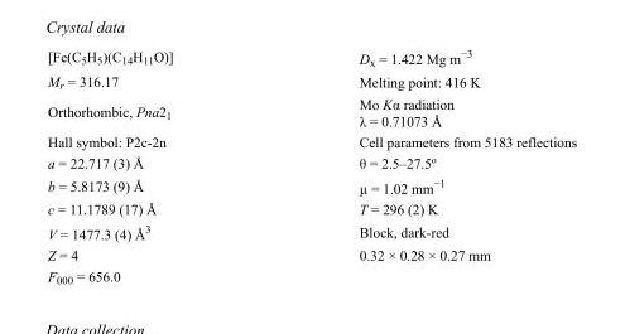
<table><tbody><tr><td>[Fe(C<sub>5</sub>H<sub>5</sub>)(C<sub>14</sub>H<sub>11</sub>O)]</td><td>D<sub>x</sub> = 1.422 Mg m<sup>−3</sup></td></tr><tr><td>M<sub>r</sub> = 316.17</td><td>Melting point: 416 K</td></tr><tr><td>Orthorhombic, Pna2<sub>1</sub></td><td>Mo Kα radiation λ = 0.71073 Å</td></tr><tr><td>Hall symbol: P2c-2n</td><td>Cell parameters from 5183 reflections</td></tr><tr><td>a = 22.717 (3) Å</td><td>θ = 2.5–27.5º</td></tr><tr><td>b = 5.8173 (9) Å</td><td>µ = 1.02 mm<sup>−1</sup></td></tr><tr><td>c = 11.1789 (17) Å</td><td>T = 296 (2) K</td></tr><tr><td>V = 1477.3 (4) Å<sup>3</sup></td><td>Block, dark-red</td></tr><tr><td>Z = 4</td><td>0.32 × 0.28 × 0.27 mm</td></tr><tr><td>F<sub>000</sub> = 656.0</td><td></td></tr></tbody></table>